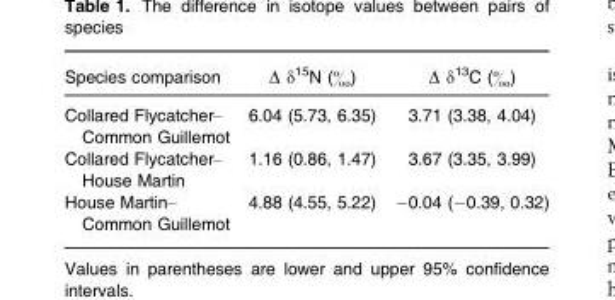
<table><thead><tr><td>Species comparison</td><td>Δ δ<sup>15</sup>N (‰)</td><td>Δ δ<sup>13</sup>C (‰)</td></tr></thead><tbody><tr><td>Collared Flycatcher– Common Guillemot</td><td>6.04 (5.73, 6.35)</td><td>3.71 (3.38, 4.04)</td></tr><tr><td>Collared Flycatcher– House Martin</td><td>1.16 (0.86, 1.47)</td><td>3.67 (3.35, 3.99)</td></tr><tr><td>House Martin– Common Guillemot</td><td>4.88 (4.55, 5.22)</td><td>−0.04 (−0.39, 0.32)</td></tr></tbody></table>